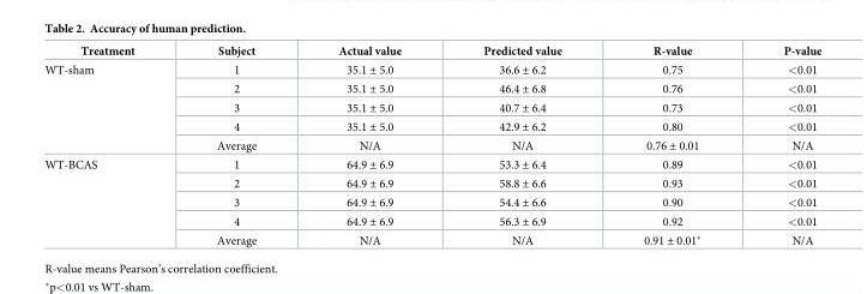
<table><thead><tr><td>Treatment</td><td>Subject</td><td>Actual value</td><td>Predicted value</td><td>R-value</td><td>P-value</td></tr></thead><tbody><tr><td rowspan="5">WT-sham</td><td>1</td><td>35.1 ± 5.0</td><td>36.6 ± 6.2</td><td>0.75</td><td>&lt;0.01</td></tr><tr><td>2</td><td>35.1 ± 5.0</td><td>46.4 ± 6.8</td><td>0.76</td><td>&lt;0.01</td></tr><tr><td>3</td><td>35.1 ± 5.0</td><td>40.7 ± 6.4</td><td>0.73</td><td>&lt;0.01</td></tr><tr><td>4</td><td>35.1 ± 5.0</td><td>42.9 ± 6.2</td><td>0.80</td><td>&lt;0.01</td></tr><tr><td>Average</td><td>N/A</td><td>N/A</td><td>0.76 ± 0.01</td><td>N/A</td></tr><tr><td rowspan="5">WT-BCAS</td><td>1</td><td>64.9 ± 6.9</td><td>53.3 ± 6.4</td><td>0.89</td><td>&lt;0.01</td></tr><tr><td>2</td><td>64.9 ± 6.9</td><td>58.8 ± 6.6</td><td>0.93</td><td>&lt;0.01</td></tr><tr><td>3</td><td>64.9 ± 6.9</td><td>54.4 ± 6.6</td><td>0.90</td><td>&lt;0.01</td></tr><tr><td>4</td><td>64.9 ± 6.9</td><td>56.3 ± 6.9</td><td>0.92</td><td>&lt;0.01</td></tr><tr><td>Average</td><td>N/A</td><td>N/A</td><td>0.91 ± 0.01*</td><td>N/A</td></tr></tbody></table>